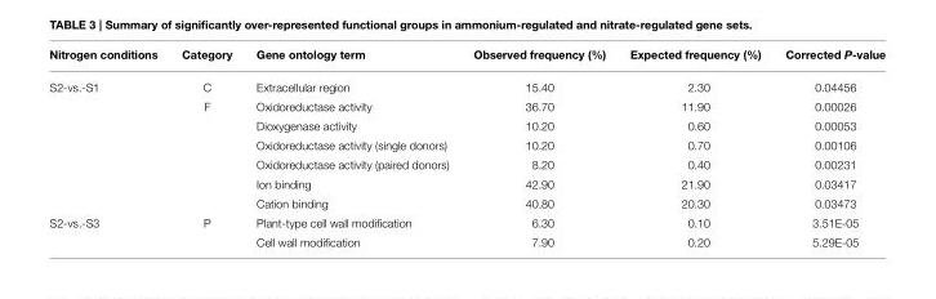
<table><thead><tr><td>Nitrogen conditions</td><td>Category</td><td>Gene ontology term</td><td>Observed frequency (%)</td><td>Expected frequency (%)</td><td>Corrected P-value</td></tr></thead><tbody><tr><td rowspan="7">S2-vs.-S1</td><td>C</td><td>Extracellular region</td><td>15.40</td><td>2.30</td><td>0.04456</td></tr><tr><td>F</td><td>Oxidoreductase activity</td><td>36.70</td><td>11.90</td><td>0.00026</td></tr><tr><td></td><td>Dioxygenase activity</td><td>10.20</td><td>0.60</td><td>0.00053</td></tr><tr><td></td><td>Oxidoreductase activity (single donors)</td><td>10.20</td><td>0.70</td><td>0.00106</td></tr><tr><td></td><td>Oxidoreductase activity (paired donors)</td><td>8.20</td><td>0.40</td><td>0.00231</td></tr><tr><td></td><td>Ion binding</td><td>42.90</td><td>21.90</td><td>0.03417</td></tr><tr><td></td><td>Cation binding</td><td>40.80</td><td>20.30</td><td>0.03473</td></tr><tr><td rowspan="2">S2-vs.-S3</td><td>P</td><td>Plant-type cell wall modification</td><td>6.30</td><td>0.10</td><td>3.51E-05</td></tr><tr><td></td><td>Cell wall modification</td><td>7.90</td><td>0.20</td><td>5.29E-05</td></tr></tbody></table>